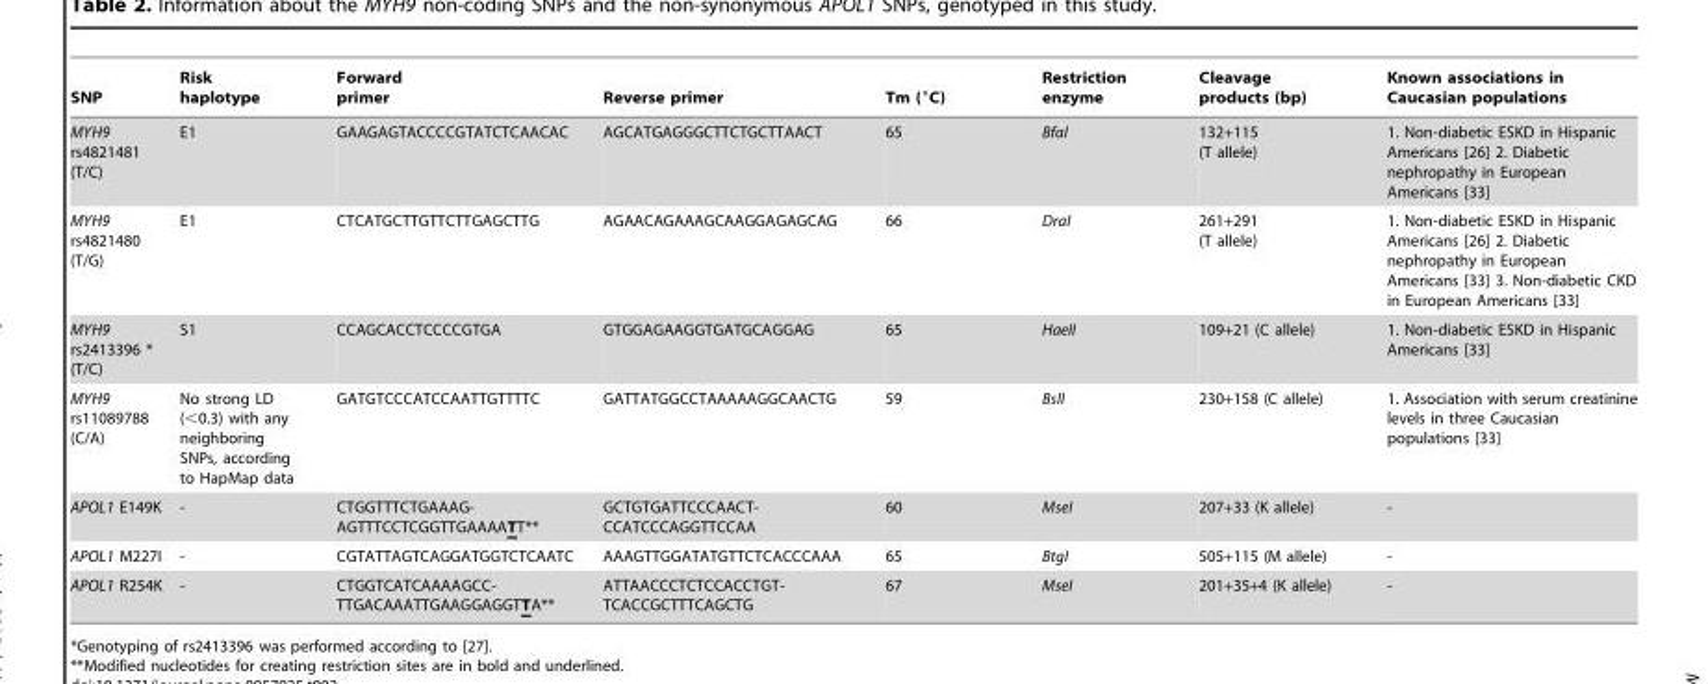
<table><thead><tr><td>SNP</td><td>Risk haplotype</td><td>Forward primer</td><td>Reverse primer</td><td>Tm (°C)</td><td>Restriction enzyme</td><td>Cleavage products (bp)</td><td>Known associations in Caucasian populations</td></tr></thead><tbody><tr><td>MYH9 rs4821481 (T/C)</td><td>E1</td><td>GAAGAGTACCCCGTATCTCAACAC</td><td>AGCATGAGGGCTTCTGCTTAACT</td><td>65</td><td>BfaI</td><td>132+115 (T allele)</td><td>1. Non-diabetic ESKD in Hispanic Americans [26] 2. Diabetic nephropathy in European Americans [33]</td></tr><tr><td>MYH9 rs4821480 (T/G)</td><td>E1</td><td>CTCATGCTTGTTCTTGAGCTTG</td><td>AGAACAGAAAGCAAGGAGAGCAG</td><td>66</td><td>DraI</td><td>261+291 (T allele)</td><td>1. Non-diabetic ESKD in Hispanic Americans [26] 2. Diabetic nephropathy in European Americans [33] 3. Non-diabetic CKD in European Americans [33]</td></tr><tr><td>MYH9 rs2413396 * (T/C)</td><td>S1</td><td>CCAGCACCTCCCCGTGA</td><td>GTGGAGAAGGTGATGCAGGAG</td><td>65</td><td>HaeII</td><td>109+21 (C allele)</td><td>1. Non-diabetic ESKD in Hispanic Americans [33]</td></tr><tr><td>MYH9 rs11089788 (C/A)</td><td>No strong LD (&lt;0.3) with any neighboring SNPs, according to HapMap data</td><td>GATGTCCCATCCAATTGTTTTC</td><td>GATTATGGCCTAAAAAGGCAACTG</td><td>59</td><td>BslI</td><td>230+158 (C allele)</td><td>1. Association with serum creatinine levels in three Caucasian populations [33]</td></tr><tr><td>APOL1 E149K</td><td>-</td><td>CTGGTTTCTGAAAG- AGTTTCCTCGGTTGAAAATT**</td><td>GCTGTGATTCCCAACT- CCATCCCAGGTTCCAA</td><td>60</td><td>MseI</td><td>207+33 (K allele)</td><td>-</td></tr><tr><td>APOL1 M227I</td><td>-</td><td>CGTATTAGTCAGGATGGTCTCAATC</td><td>AAAGTTGGATATGTTCTCACCCAAA</td><td>65</td><td>BtgI</td><td>505+115 (M allele)</td><td>-</td></tr><tr><td>APOL1 R254K</td><td>-</td><td>CTGGTCATCAAAAGCC- TTGACAAATTGAAGGAGGTTA**</td><td>ATTAACCCTCTCCACCTGT- TCACCGCTTTCAGCTG</td><td>67</td><td>MseI</td><td>201+35+4 (K allele)</td><td>-</td></tr></tbody></table>